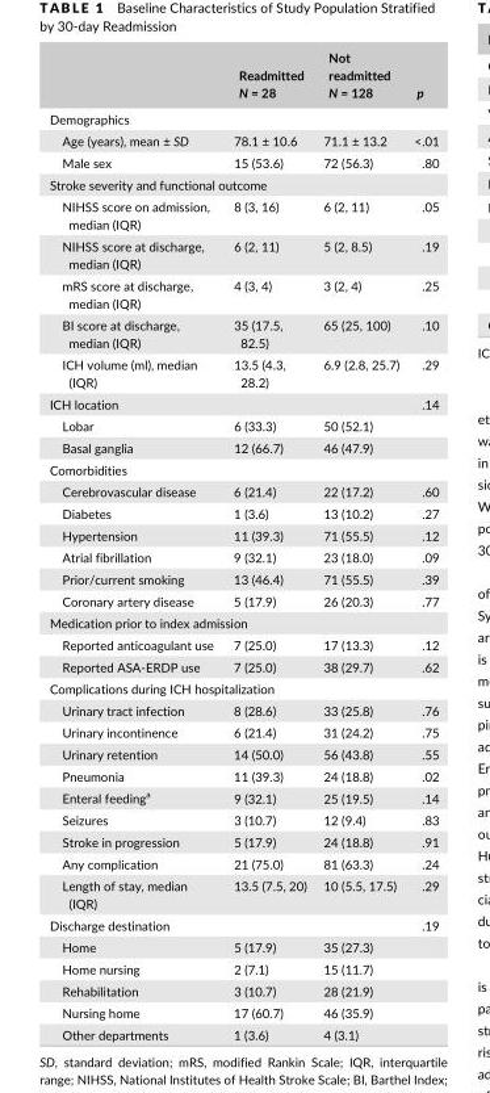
<table><thead><tr><td></td><td>Readmitted N=28</td><td>Not readmitted N=128</td><td>p</td></tr></thead><tbody><tr><td colspan="4">Demographics</td></tr><tr><td>Age (years), mean ± SD</td><td>78.1 ± 10.6</td><td>71.1 ± 13.2</td><td>&lt;.01</td></tr><tr><td>Male sex</td><td>15 (53.6)</td><td>72 (56.3)</td><td>.80</td></tr><tr><td colspan="4">Stroke severity and functional outcome</td></tr><tr><td>NIHSS score on admission, median (IQR)</td><td>8 (3, 16)</td><td>6 (2, 11)</td><td>.05</td></tr><tr><td>NIHSS score at discharge, median (IQR)</td><td>6 (2, 11)</td><td>5 (2, 8.5)</td><td>.19</td></tr><tr><td>mRS score at discharge, median (IQR)</td><td>4 (3, 4)</td><td>3 (2, 4)</td><td>.25</td></tr><tr><td>BI score at discharge, median (IQR)</td><td>35 (17.5, 82.5)</td><td>65 (25, 100)</td><td>.10</td></tr><tr><td>ICH volume (ml), median (IQR)</td><td>13.5 (4.3, 28.2)</td><td>6.9 (2.8, 25.7)</td><td>.29</td></tr><tr><td>ICH location</td><td></td><td></td><td>.14</td></tr><tr><td>Lobar</td><td>6 (33.3)</td><td>50 (52.1)</td><td></td></tr><tr><td>Basal ganglia</td><td>12 (66.7)</td><td>46 (47.9)</td><td></td></tr><tr><td colspan="4">Comorbidities</td></tr><tr><td>Cerebrovascular disease</td><td>6 (21.4)</td><td>22 (17.2)</td><td>.60</td></tr><tr><td>Diabetes</td><td>1 (3.6)</td><td>13 (10.2)</td><td>.27</td></tr><tr><td>Hypertension</td><td>11 (39.3)</td><td>71 (55.5)</td><td>.12</td></tr><tr><td>Atrial fibrillation</td><td>9 (32.1)</td><td>23 (18.0)</td><td>.09</td></tr><tr><td>Prior/current smoking</td><td>13 (46.4)</td><td>71 (55.5)</td><td>.39</td></tr><tr><td>Coronary artery disease</td><td>5 (17.9)</td><td>26 (20.3)</td><td>.77</td></tr><tr><td colspan="4">Medication prior to index admission</td></tr><tr><td>Reported anticoagulant use</td><td>7 (25.0)</td><td>17 (13.3)</td><td>.12</td></tr><tr><td>Reported ASA- ERDP use</td><td>7 (25.0)</td><td>38 (29.7)</td><td>.62</td></tr><tr><td colspan="4">Complications during ICH hospitalization</td></tr><tr><td>Urinary tract infection</td><td>8 (28.6)</td><td>33 (25.8)</td><td>.76</td></tr><tr><td>Urinary incontinence</td><td>6 (21.4)</td><td>31 (24.2)</td><td>.75</td></tr><tr><td>Urinary retention</td><td>14 (50.0)</td><td>56 (43.8)</td><td>.55</td></tr><tr><td>Pneumonia</td><td>11 (39.3)</td><td>24 (18.8)</td><td>.02</td></tr><tr><td>Enteral feeding<sup>a</sup></td><td>9 (32.1)</td><td>25 (19.5)</td><td>.14</td></tr><tr><td>Seizures</td><td>3 (10.7)</td><td>12 (9.4)</td><td>.83</td></tr><tr><td>Stroke in progression</td><td>5 (17.9)</td><td>24 (18.8)</td><td>.91</td></tr><tr><td>Any complication</td><td>21 (75.0)</td><td>81 (63.3)</td><td>.24</td></tr><tr><td>Length of stay, median (IQR)</td><td>13.5 (7.5, 20)</td><td>10 (5.5, 17.5)</td><td>.29</td></tr><tr><td>Discharge destination</td><td></td><td></td><td>.19</td></tr><tr><td>Home</td><td>5 (17.9)</td><td>35 (27.3)</td><td></td></tr><tr><td>Home nursing</td><td>2 (7.1)</td><td>15 (11.7)</td><td></td></tr><tr><td>Rehabilitation</td><td>3 (10.7)</td><td>28 (21.9)</td><td></td></tr><tr><td>Nursing home</td><td>17 (60.7)</td><td>46 (35.9)</td><td></td></tr><tr><td>Other departments</td><td>1 (3.6)</td><td>4 (3.1)</td><td></td></tr></tbody></table>